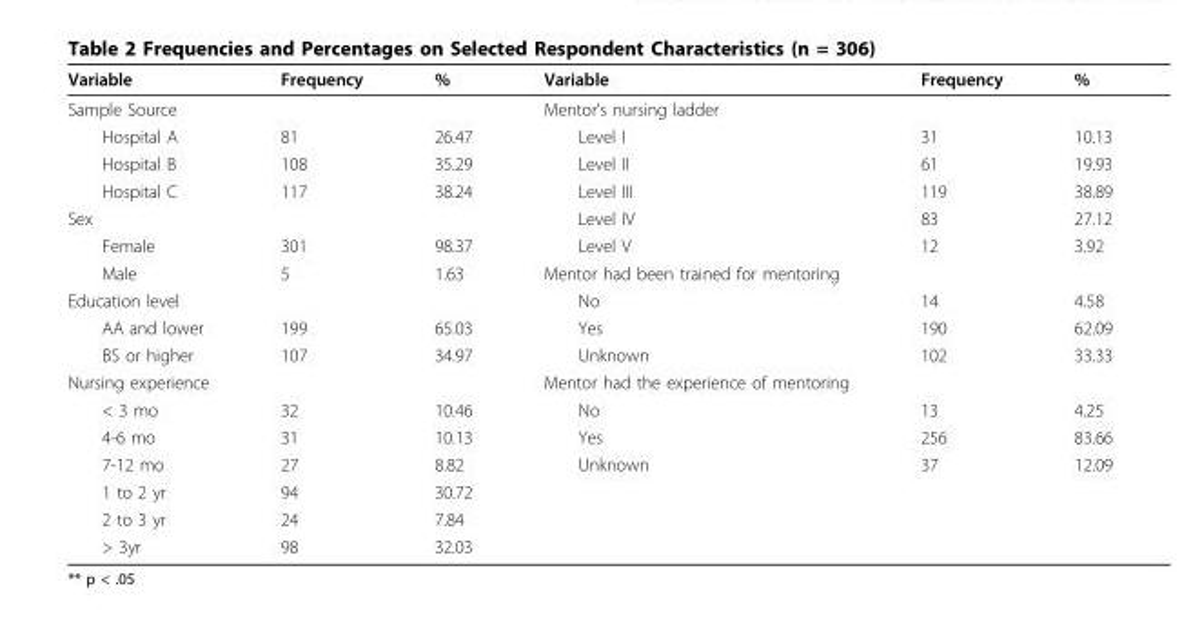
<table><thead><tr><td>Variable</td><td>Frequency</td><td>%</td><td>Variable</td><td>Frequency</td><td>%</td></tr></thead><tbody><tr><td>Sample Source</td><td></td><td></td><td>Mentor’s nursing ladder</td><td></td><td></td></tr><tr><td>Hospital A</td><td>81</td><td>26.47</td><td>Level I</td><td>31</td><td>10.13</td></tr><tr><td>Hospital B</td><td>108</td><td>35.29</td><td>Level II</td><td>61</td><td>19.93</td></tr><tr><td>Hospital C</td><td>117</td><td>38.24</td><td>Level III</td><td>119</td><td>38.89</td></tr><tr><td>Sex</td><td></td><td></td><td>Level IV</td><td>83</td><td>27.12</td></tr><tr><td>Female</td><td>301</td><td>98.37</td><td>Level V</td><td>12</td><td>3.92</td></tr><tr><td>Male</td><td>5</td><td>1.63</td><td>Mentor had been trained for mentoring</td><td></td><td></td></tr><tr><td>Education level</td><td></td><td></td><td>No</td><td>14</td><td>4.58</td></tr><tr><td>AA and lower</td><td>199</td><td>65.03</td><td>Yes</td><td>190</td><td>62.09</td></tr><tr><td>BS or higher</td><td>107</td><td>34.97</td><td>Unknown</td><td>102</td><td>33.33</td></tr><tr><td>Nursing experience</td><td></td><td></td><td>Mentor had the experience of mentoring</td><td></td><td></td></tr><tr><td>&lt; 3 mo</td><td>32</td><td>10.46</td><td>No</td><td>13</td><td>4.25</td></tr><tr><td>4-6 mo</td><td>31</td><td>10.13</td><td>Yes</td><td>256</td><td>83.66</td></tr><tr><td>7-12 mo</td><td>27</td><td>8.82</td><td>Unknown</td><td>37</td><td>12.09</td></tr><tr><td>1 to 2 yr</td><td>94</td><td>30.72</td><td></td><td></td><td></td></tr><tr><td>2 to 3 yr</td><td>24</td><td>7.84</td><td></td><td></td><td></td></tr><tr><td>&gt; 3yr</td><td>98</td><td>32.03</td><td></td><td></td><td></td></tr></tbody></table>